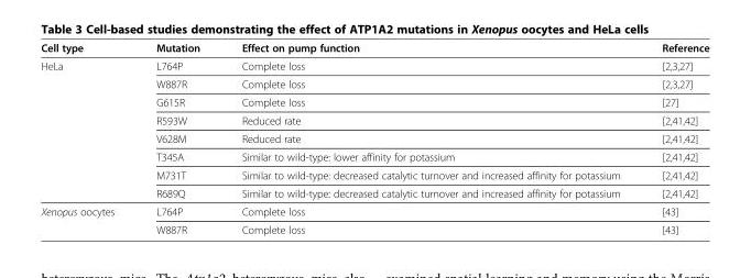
<table><thead><tr><td>Cell type</td><td>Mutation</td><td>Effect on pump function</td><td>Reference</td></tr></thead><tbody><tr><td rowspan="8">HeLa</td><td>L764P</td><td>Complete loss</td><td>[2,3,27]</td></tr><tr><td>W887R</td><td>Complete loss</td><td>[2,3,27]</td></tr><tr><td>G615R</td><td>Complete loss</td><td>[27]</td></tr><tr><td>R593W</td><td>Reduced rate</td><td>[2,41,42]</td></tr><tr><td>V628M</td><td>Reduced rate</td><td>[2,41,42]</td></tr><tr><td>T345A</td><td>Similar to wild-type: lower affinity for potassium</td><td>[2,41,42]</td></tr><tr><td>M731T</td><td>Similar to wild-type: decreased catalytic turnover and increased affinity for potassium</td><td>[2,41,42]</td></tr><tr><td>R689Q</td><td>Similar to wild-type: decreased catalytic turnover and increased affinity for potassium</td><td>[2,41,42]</td></tr><tr><td rowspan="2">Xenopus oocytes</td><td>L764P</td><td>Complete loss</td><td>[43]</td></tr><tr><td>W887R</td><td>Complete loss</td><td>[43]</td></tr></tbody></table>